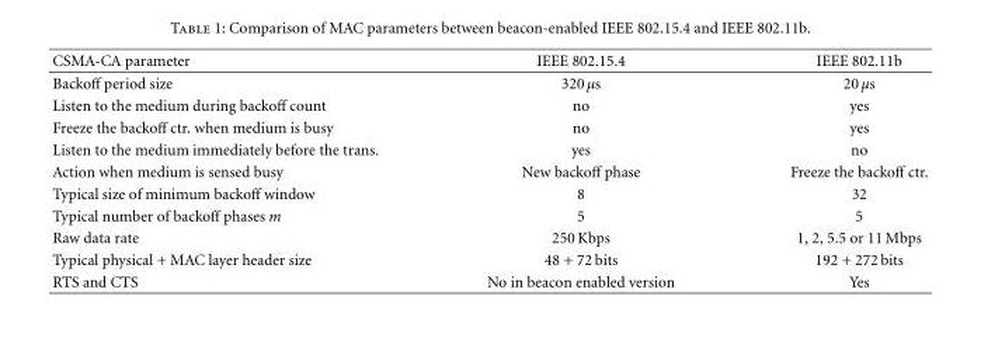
<table><thead><tr><td>CSMA-CA parameter</td><td>IEEE 802.15.4</td><td>IEEE 802.11b</td></tr></thead><tbody><tr><td>Backoff period size</td><td>320 μs</td><td>20 μs</td></tr><tr><td>Listen to the medium during backoff count</td><td>no</td><td>yes</td></tr><tr><td>Freeze the backoff ctr. when medium is busy</td><td>no</td><td>yes</td></tr><tr><td>Listen to the medium immediately before the trans.</td><td>yes</td><td>no</td></tr><tr><td>Action when medium is sensed busy</td><td>New backoff phase</td><td>Freeze the backoff ctr.</td></tr><tr><td>Typical size of minimum backoff window</td><td>8</td><td>32</td></tr><tr><td>Typical number of backoff phases m</td><td>5</td><td>5</td></tr><tr><td>Raw data rate</td><td>250 Kbps</td><td>1, 2, 5.5 or 11 Mbps</td></tr><tr><td>Typical physical + MAC layer header size</td><td>48 + 72 bits</td><td>192 + 272 bits</td></tr><tr><td>RTS and CTS</td><td>No in beacon enabled version</td><td>Yes</td></tr></tbody></table>